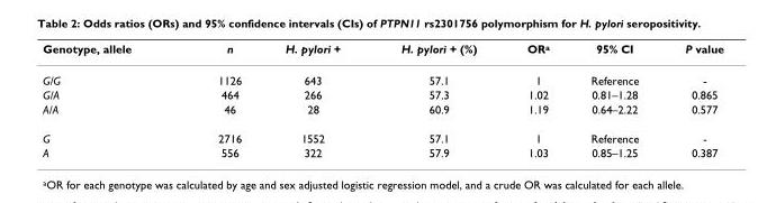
<table><thead><tr><td>Genotype, allele</td><td>n</td><td>H. pylori +</td><td>H. pylori + (%)</td><td>OR<sup>a</sup></td><td>95% CI</td><td>P value</td></tr></thead><tbody><tr><td>G/G</td><td>1126</td><td>643</td><td>57.1</td><td>1</td><td>Reference</td><td>-</td></tr><tr><td>G/A</td><td>464</td><td>266</td><td>57.3</td><td>1.02</td><td>0.81–1.28</td><td>0.865</td></tr><tr><td>A/A</td><td>46</td><td>28</td><td>60.9</td><td>1.19</td><td>0.64–2.22</td><td>0.577</td></tr><tr><td>G</td><td>2716</td><td>1552</td><td>57.1</td><td>1</td><td>Reference</td><td>-</td></tr><tr><td>A</td><td>556</td><td>322</td><td>57.9</td><td>1.03</td><td>0.85–1.25</td><td>0.387</td></tr></tbody></table>